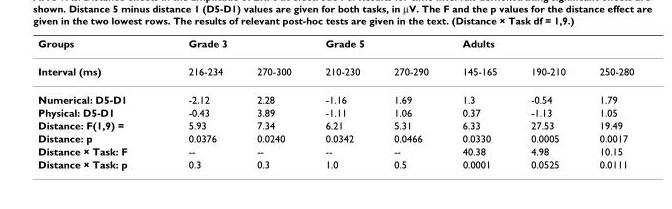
<table><thead><tr><td rowspan="2">Groups Interval (ms)</td><td colspan="2">Grade 3</td><td colspan="2">Grade 5</td><td colspan="3">Adults</td></tr><tr><td>216-234</td><td>270-300</td><td>210-230</td><td>270-290</td><td>145-165</td><td>190-210</td><td>250-280</td></tr></thead><tbody><tr><td>Numerical: D5-D1</td><td>-2.12</td><td>2.28</td><td>-1.16</td><td>1.69</td><td>1.3</td><td>-0.54</td><td>1.79</td></tr><tr><td>Physical: D5-D1</td><td>-0.43</td><td>3.89</td><td>-1.11</td><td>1.06</td><td>0.37</td><td>-1.13</td><td>1.05</td></tr><tr><td>Distance: F(1,9) =</td><td>5.93</td><td>7.34</td><td>6.21</td><td>5.31</td><td>6.33</td><td>27.53</td><td>19.49</td></tr><tr><td>Distance: p</td><td>0.0376</td><td>0.0240</td><td>0.0342</td><td>0.0466</td><td>0.0330</td><td>0.0005</td><td>0.0017</td></tr><tr><td>Distance × Task: F</td><td>--</td><td>--</td><td>--</td><td>--</td><td>40.38</td><td>4.98</td><td>10.15</td></tr><tr><td>Distance × Task: p</td><td>0.3</td><td>0.3</td><td>1.0</td><td>0.5</td><td>0.0001</td><td>0.0525</td><td>0.0111</td></tr></tbody></table>